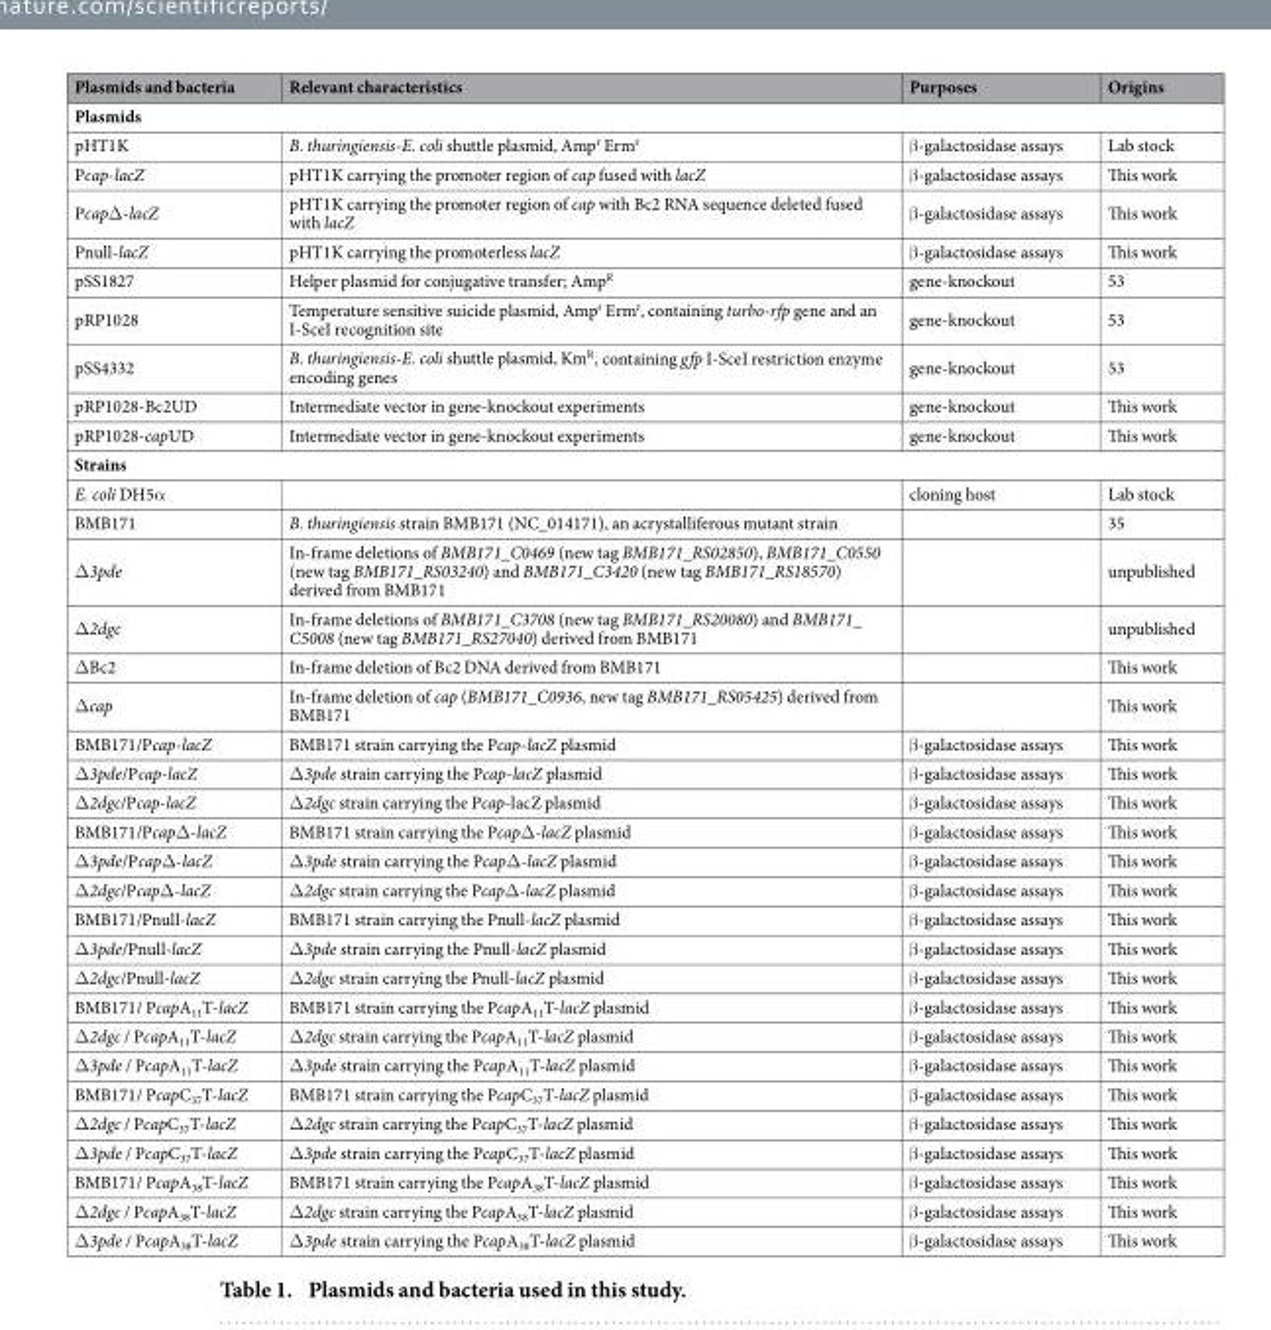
<table><thead><tr><td>Plasmids and bacteria</td><td>Relevant characteristics</td><td>Purposes</td><td>Origins</td></tr></thead><tbody><tr><td colspan="4">Plasmids</td></tr><tr><td>pHT1K</td><td>B. thuringiensis-E. coli shuttle plasmid, Amp<sup>r</sup> Erm<sup>r</sup></td><td>β -galactosidase assays</td><td>Lab stock</td></tr><tr><td>Pcap-lacZ</td><td>pHT1K carrying the promoter region of cap fused with lacZ</td><td>β -galactosidase assays</td><td>This work</td></tr><tr><td>PcapΔ -lacZ</td><td>pHT1K carrying the promoter region of cap with Bc2 RNA sequence deleted fused with lacZ</td><td>β -galactosidase assays</td><td>This work</td></tr><tr><td>Pnull-lacZ</td><td>pHT1K carrying the promoterless lacZ</td><td>β -galactosidase assays</td><td>This work</td></tr><tr><td>pSS1827</td><td>Helper plasmid for conjugative transfer; Amp<sup>R</sup></td><td>gene-knockout</td><td>53</td></tr><tr><td>pRP1028</td><td>Temperature sensitive suicide plasmid, Amp<sup>r</sup> Erm<sup>r</sup>, containing turbo-rfp gene and an I-SceI recognition site</td><td>gene-knockout</td><td>53</td></tr><tr><td>pSS4332</td><td>B. thuringiensis-E. coli shuttle plasmid, Km<sup>R</sup>, containing gfp I-SceI restriction enzyme encoding genes</td><td>gene-knockout</td><td>53</td></tr><tr><td>pRP1028-Bc2UD</td><td>Intermediate vector in gene-knockout experiments</td><td>gene-knockout</td><td>This work</td></tr><tr><td>pRP1028-capUD</td><td>Intermediate vector in gene-knockout experiments</td><td>gene-knockout</td><td>This work</td></tr><tr><td colspan="4">Strains</td></tr><tr><td>E. coli DH5α</td><td></td><td>cloning host</td><td>Lab stock</td></tr><tr><td>BMB171</td><td>B. thuringiensis strain BMB171 (NC_014171), an acrystalliferous mutant strain</td><td></td><td>35</td></tr><tr><td>Δ 3pde</td><td>In-frame deletions of BMB171_C0469 (new tag BMB171_RS02850), BMB171_C0550 (new tag BMB171_RS03240) and BMB171_C3420 (new tag BMB171_RS18570) derived from BMB171</td><td></td><td>unpublished</td></tr><tr><td>Δ 2dgc</td><td>In-frame deletions of BMB171_C3708 (new tag BMB171_RS20080) and BMB171_ C5008 (new tag BMB171_RS27040) derived from BMB171</td><td></td><td>unpublished</td></tr><tr><td>Δ Bc2</td><td>In-frame deletion of Bc2 DNA derived from BMB171</td><td></td><td>This work</td></tr><tr><td>Δ cap</td><td>In-frame deletion of cap (BMB171_C0936, new tag BMB171_RS05425) derived from BMB171</td><td></td><td>This work</td></tr><tr><td>BMB171/Pcap-lacZ</td><td>BMB171 strain carrying the Pcap-lacZ plasmid</td><td>β -galactosidase assays</td><td>This work</td></tr><tr><td>Δ 3pde/Pcap-lacZ</td><td>Δ 3pde strain carrying the Pcap-lacZ plasmid</td><td>β -galactosidase assays</td><td>This work</td></tr><tr><td>Δ 2dgc/Pcap-lacZ</td><td>Δ 2dgc strain carrying the Pcap-lacZ plasmid</td><td>β -galactosidase assays</td><td>This work</td></tr><tr><td>BMB171/PcapΔ -lacZ</td><td>BMB171 strain carrying the PcapΔ -lacZ plasmid</td><td>β -galactosidase assays</td><td>This work</td></tr><tr><td>Δ 3pde/PcapΔ -lacZ</td><td>Δ 3pde strain carrying the PcapΔ -lacZ plasmid</td><td>β -galactosidase assays</td><td>This work</td></tr><tr><td>Δ 2dgc/PcapΔ -lacZ</td><td>Δ 2dgc strain carrying the PcapΔ -lacZ plasmid</td><td>β -galactosidase assays</td><td>This work</td></tr><tr><td>BMB171/Pnull-lacZ</td><td>BMB171 strain carrying the Pnull-lacZ plasmid</td><td>β -galactosidase assays</td><td>This work</td></tr><tr><td>Δ 3pde/Pnull-lacZ</td><td>Δ 3pde strain carrying the Pnull-lacZ plasmid</td><td>β -galactosidase assays</td><td>This work</td></tr><tr><td>Δ 2dgc/Pnull-lacZ</td><td>Δ 2dgc strain carrying the Pnull-lacZ plasmid</td><td>β -galactosidase assays</td><td>This work</td></tr><tr><td>BMB171/ PcapA<sub>11</sub>T-lacZ</td><td>BMB171 strain carrying the PcapA<sub>11</sub>T-lacZ plasmid</td><td>β -galactosidase assays</td><td>This work</td></tr><tr><td>Δ 2dgc / PcapA<sub>11</sub>T-lacZ</td><td>Δ 2dgc strain carrying the PcapA<sub>11</sub>T-lacZ plasmid</td><td>β -galactosidase assays</td><td>This work</td></tr><tr><td>Δ 3pde / PcapA<sub>11</sub>T-lacZ</td><td>Δ 3pde strain carrying the PcapA<sub>11</sub>T-lacZ plasmid</td><td>β -galactosidase assays</td><td>This work</td></tr><tr><td>BMB171/ PcapC<sub>37</sub>T-lacZ</td><td>BMB171 strain carrying the PcapC<sub>37</sub>T-lacZ plasmid</td><td>β -galactosidase assays</td><td>This work</td></tr><tr><td>Δ 2dgc / PcapC<sub>37</sub>T-lacZ</td><td>Δ 2dgc strain carrying the PcapC<sub>37</sub>T-lacZ plasmid</td><td>β -galactosidase assays</td><td>This work</td></tr><tr><td>Δ 3pde / PcapC<sub>37</sub>T-lacZ</td><td>Δ 3pde strain carrying the PcapC<sub>37</sub>T-lacZ plasmid</td><td>β -galactosidase assays</td><td>This work</td></tr><tr><td>BMB171/ PcapA<sub>38</sub>T-lacZ</td><td>BMB171 strain carrying the PcapA<sub>38</sub>T-lacZ plasmid</td><td>β -galactosidase assays</td><td>This work</td></tr><tr><td>Δ 2dgc / PcapA<sub>38</sub>T-lacZ</td><td>Δ 2dgc strain carrying the PcapA<sub>38</sub>T-lacZ plasmid</td><td>β -galactosidase assays</td><td>This work</td></tr><tr><td>Δ 3pde / PcapA<sub>38</sub>T-lacZ</td><td>Δ 3pde strain carrying the PcapA<sub>38</sub>T-lacZ plasmid</td><td>β -galactosidase assays</td><td>This work</td></tr></tbody></table>